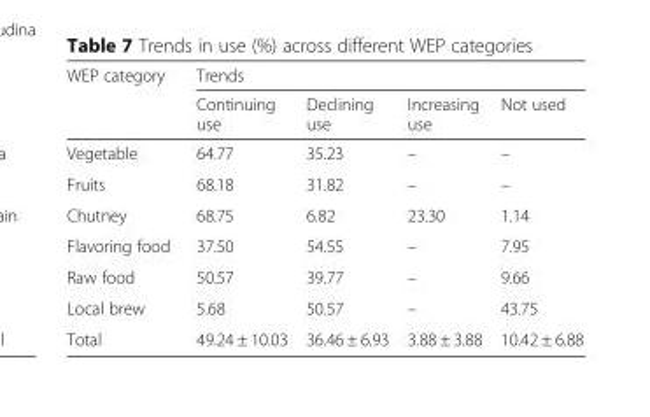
<table><thead><tr><td rowspan="2">WEP category</td><td colspan="4">Trends</td></tr><tr><td>Continuing use</td><td>Declining use</td><td>Increasing use</td><td>Not used</td></tr></thead><tbody><tr><td>Vegetable</td><td>64.77</td><td>35.23</td><td>–</td><td>–</td></tr><tr><td>Fruits</td><td>68.18</td><td>31.82</td><td>–</td><td>–</td></tr><tr><td>Chutney</td><td>68.75</td><td>6.82</td><td>23.30</td><td>1.14</td></tr><tr><td>Flavoring food</td><td>37.50</td><td>54.55</td><td>–</td><td>7.95</td></tr><tr><td>Raw food</td><td>50.57</td><td>39.77</td><td>–</td><td>9.66</td></tr><tr><td>Local brew</td><td>5.68</td><td>50.57</td><td>–</td><td>43.75</td></tr><tr><td>Total</td><td>49.24 ± 10.03</td><td>36.46 ± 6.93</td><td>3.88 ± 3.88</td><td>10.42 ± 6.88</td></tr></tbody></table>